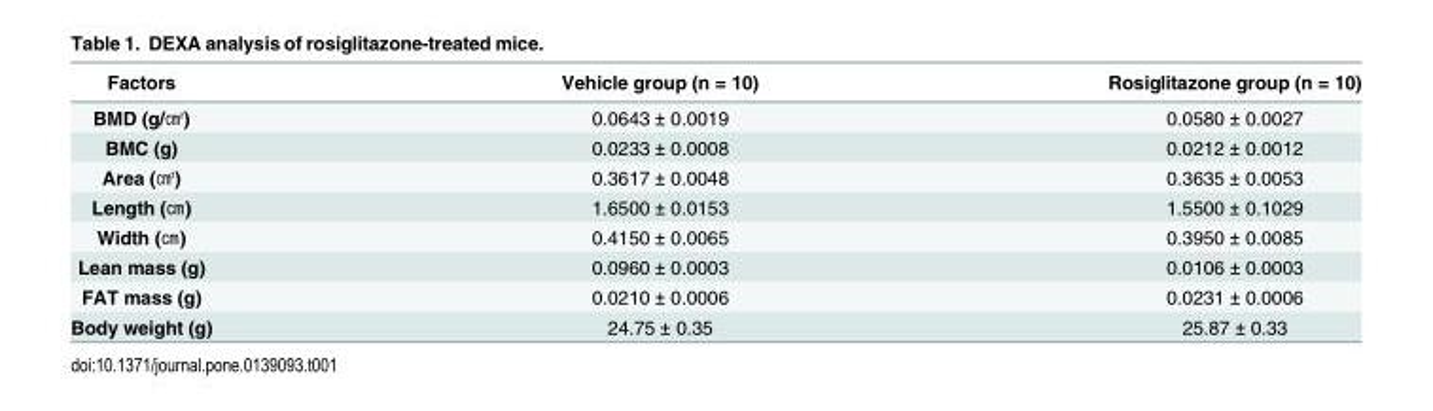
<table><thead><tr><td>Factors</td><td>Vehicle group (n = 10)</td><td>Rosiglitazone group (n = 10)</td></tr></thead><tbody><tr><td>BMD (g/㎠)</td><td>0.0643 ± 0.0019</td><td>0.0580 ± 0.0027</td></tr><tr><td>BMC (g)</td><td>0.0233 ± 0.0008</td><td>0.0212 ± 0.0012</td></tr><tr><td>Area (㎠)</td><td>0.3617 ± 0.0048</td><td>0.3635 ± 0.0053</td></tr><tr><td>Length (㎝)</td><td>1.6500 ± 0.0153</td><td>1.5500 ± 0.1029</td></tr><tr><td>Width (㎝)</td><td>0.4150 ± 0.0065</td><td>0.3950 ± 0.0085</td></tr><tr><td>Lean mass (g)</td><td>0.0960 ± 0.0003</td><td>0.0106 ± 0.0003</td></tr><tr><td>FAT mass (g)</td><td>0.0210 ± 0.0006</td><td>0.0231 ± 0.0006</td></tr><tr><td>Body weight (g)</td><td>24.75 ± 0.35</td><td>25.87 ± 0.33</td></tr></tbody></table>